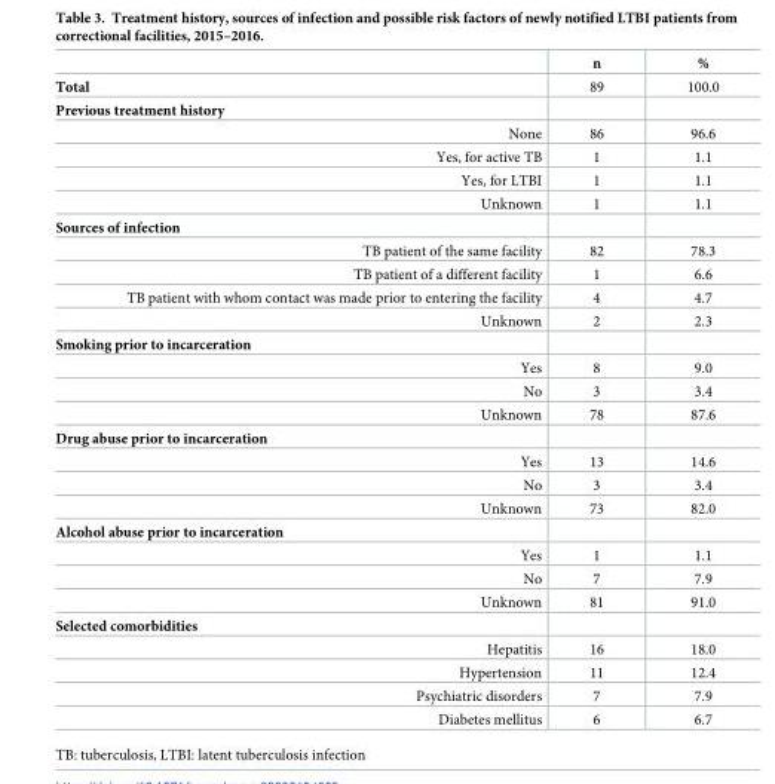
<table><thead><tr><td></td><td>n</td><td>%</td></tr></thead><tbody><tr><td>Total</td><td>89</td><td>100.0</td></tr><tr><td colspan="3">Previous treatment history</td></tr><tr><td>None</td><td>86</td><td>96.6</td></tr><tr><td>Yes, for active TB</td><td>1</td><td>1.1</td></tr><tr><td>Yes, for LTBI</td><td>1</td><td>1.1</td></tr><tr><td>Unknown</td><td>1</td><td>1.1</td></tr><tr><td colspan="3">Sources of infection</td></tr><tr><td>TB patient of the same facility</td><td>82</td><td>78.3</td></tr><tr><td>TB patient of a different facility</td><td>1</td><td>6.6</td></tr><tr><td>TB patient with whom contact was made prior to entering the facility</td><td>4</td><td>4.7</td></tr><tr><td>Unknown</td><td>2</td><td>2.3</td></tr><tr><td colspan="3">Smoking prior to incarceration</td></tr><tr><td>Yes</td><td>8</td><td>9.0</td></tr><tr><td>No</td><td>3</td><td>3.4</td></tr><tr><td>Unknown</td><td>78</td><td>87.6</td></tr><tr><td colspan="3">Drug abuse prior to incarceration</td></tr><tr><td>Yes</td><td>13</td><td>14.6</td></tr><tr><td>No</td><td>3</td><td>3.4</td></tr><tr><td>Unknown</td><td>73</td><td>82.0</td></tr><tr><td colspan="3">Alcohol abuse prior to incarceration</td></tr><tr><td>Yes</td><td>1</td><td>1.1</td></tr><tr><td>No</td><td>7</td><td>7.9</td></tr><tr><td>Unknown</td><td>81</td><td>91.0</td></tr><tr><td colspan="3">Selected comorbidities</td></tr><tr><td>Hepatitis</td><td>16</td><td>18.0</td></tr><tr><td>Hypertension</td><td>11</td><td>12.4</td></tr><tr><td>Psychiatric disorders</td><td>7</td><td>7.9</td></tr><tr><td>Diabetes mellitus</td><td>6</td><td>6.7</td></tr></tbody></table>